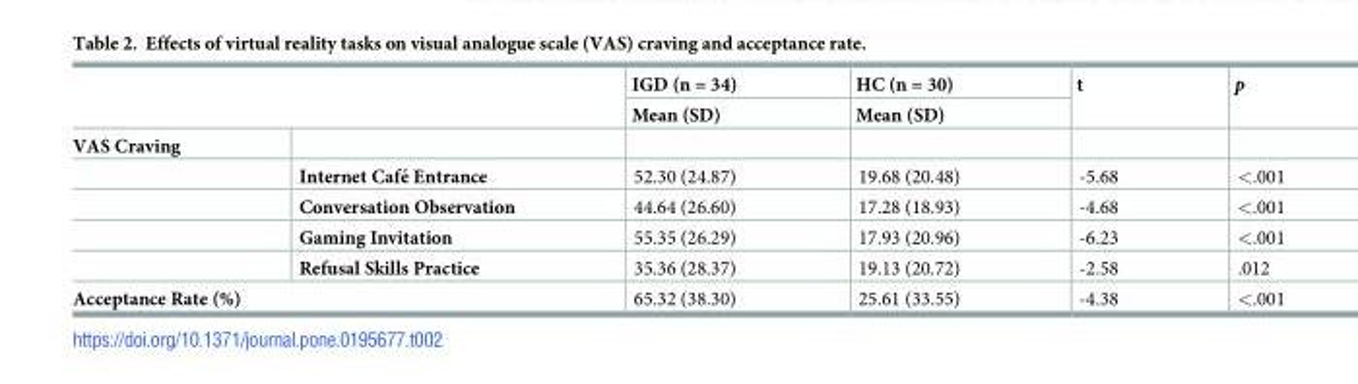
<table><thead><tr><td rowspan="2"></td><td rowspan="2"></td><td rowspan="2">IGD (n = 34) Mean (SD)</td><td rowspan="2">HC (n = 30) Mean (SD)</td><td rowspan="2">t</td><td rowspan="2">p</td></tr><tr></tr></thead><tbody><tr><td colspan="6">VAS Craving</td></tr><tr><td></td><td>Internet Cafe´ Entrance</td><td>52.30 (24.87)</td><td>19.68 (20.48)</td><td>-5.68</td><td>&lt;.001</td></tr><tr><td></td><td>Conversation Observation</td><td>44.64 (26.60)</td><td>17.28 (18.93)</td><td>-4.68</td><td>&lt;.001</td></tr><tr><td></td><td>Gaming Invitation</td><td>55.35 (26.29)</td><td>17.93 (20.96)</td><td>-6.23</td><td>&lt;.001</td></tr><tr><td></td><td>Refusal Skills Practice</td><td>35.36 (28.37)</td><td>19.13 (20.72)</td><td>-2.58</td><td>.012</td></tr><tr><td colspan="2">Acceptance Rate (%)</td><td>65.32 (38.30)</td><td>25.61 (33.55)</td><td>-4.38</td><td>&lt;.001</td></tr></tbody></table>